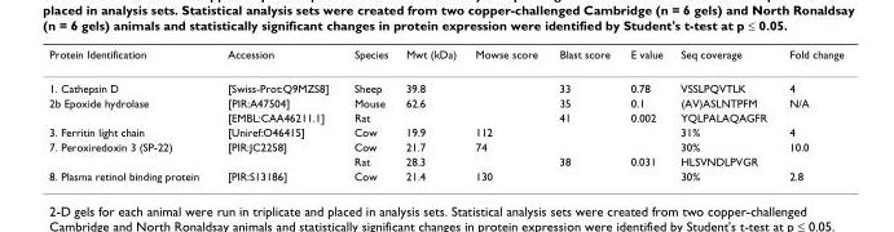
<table><thead><tr><td>Protein Identification</td><td>Accession</td><td>Species</td><td>Mwt (kDa)</td><td>Mowse score</td><td>Blast score</td><td>E value</td><td>Seq coverage</td><td>Fold change</td></tr></thead><tbody><tr><td>1. Cathepsin D</td><td>[Swiss-Prot:Q9MZS8]</td><td>Sheep</td><td>39.8</td><td></td><td>33</td><td>0.78</td><td>VSSLPQVTLK</td><td>4</td></tr><tr><td rowspan="2">2b Epoxide hydrolase</td><td>[PIR:A47504]</td><td>Mouse</td><td>62.6</td><td></td><td>35</td><td>0.1</td><td>(AV)ASLNTPFM</td><td>N/A</td></tr><tr><td>[EMBL:CAA46211.1]</td><td>Rat</td><td></td><td></td><td>41</td><td>0.002</td><td>YQLPALAQAGFR</td><td></td></tr><tr><td>3. Ferritin light chain</td><td>[Uniref:O46415]</td><td>Cow</td><td>19.9</td><td>112</td><td></td><td></td><td>31%</td><td>4</td></tr><tr><td rowspan="2">7. Peroxiredoxin 3 (SP-22)</td><td>[PIR:JC2258]</td><td>Cow</td><td>21.7</td><td>74</td><td></td><td></td><td>30%</td><td>10.0</td></tr><tr><td></td><td>Rat</td><td>28.3</td><td></td><td>38</td><td>0.031</td><td>HLSVNDLPVGR</td><td></td></tr><tr><td>8. Plasma retinol binding protein</td><td>[PIR:S13186]</td><td>Cow</td><td>21.4</td><td>130</td><td></td><td></td><td>30%</td><td>2.8</td></tr></tbody></table>